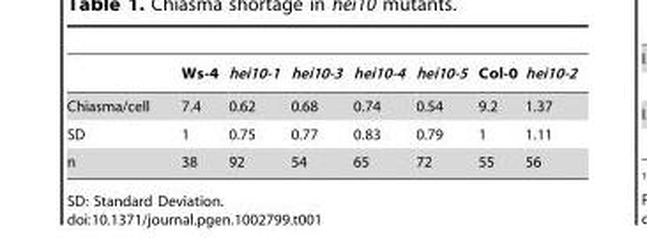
<table><thead><tr><td></td><td>Ws-4</td><td>hei10-1</td><td>hei10-3</td><td>hei10-4</td><td>hei10-5</td><td>Col-0</td><td>hei10-2</td></tr></thead><tbody><tr><td>Chiasma/cell</td><td>7.4</td><td>0.62</td><td>0.68</td><td>0.74</td><td>0.54</td><td>9.2</td><td>1.37</td></tr><tr><td>SD</td><td>1</td><td>0.75</td><td>0.77</td><td>0.83</td><td>0.79</td><td>1</td><td>1.11</td></tr><tr><td>n</td><td>38</td><td>92</td><td>54</td><td>65</td><td>72</td><td>55</td><td>56</td></tr></tbody></table>